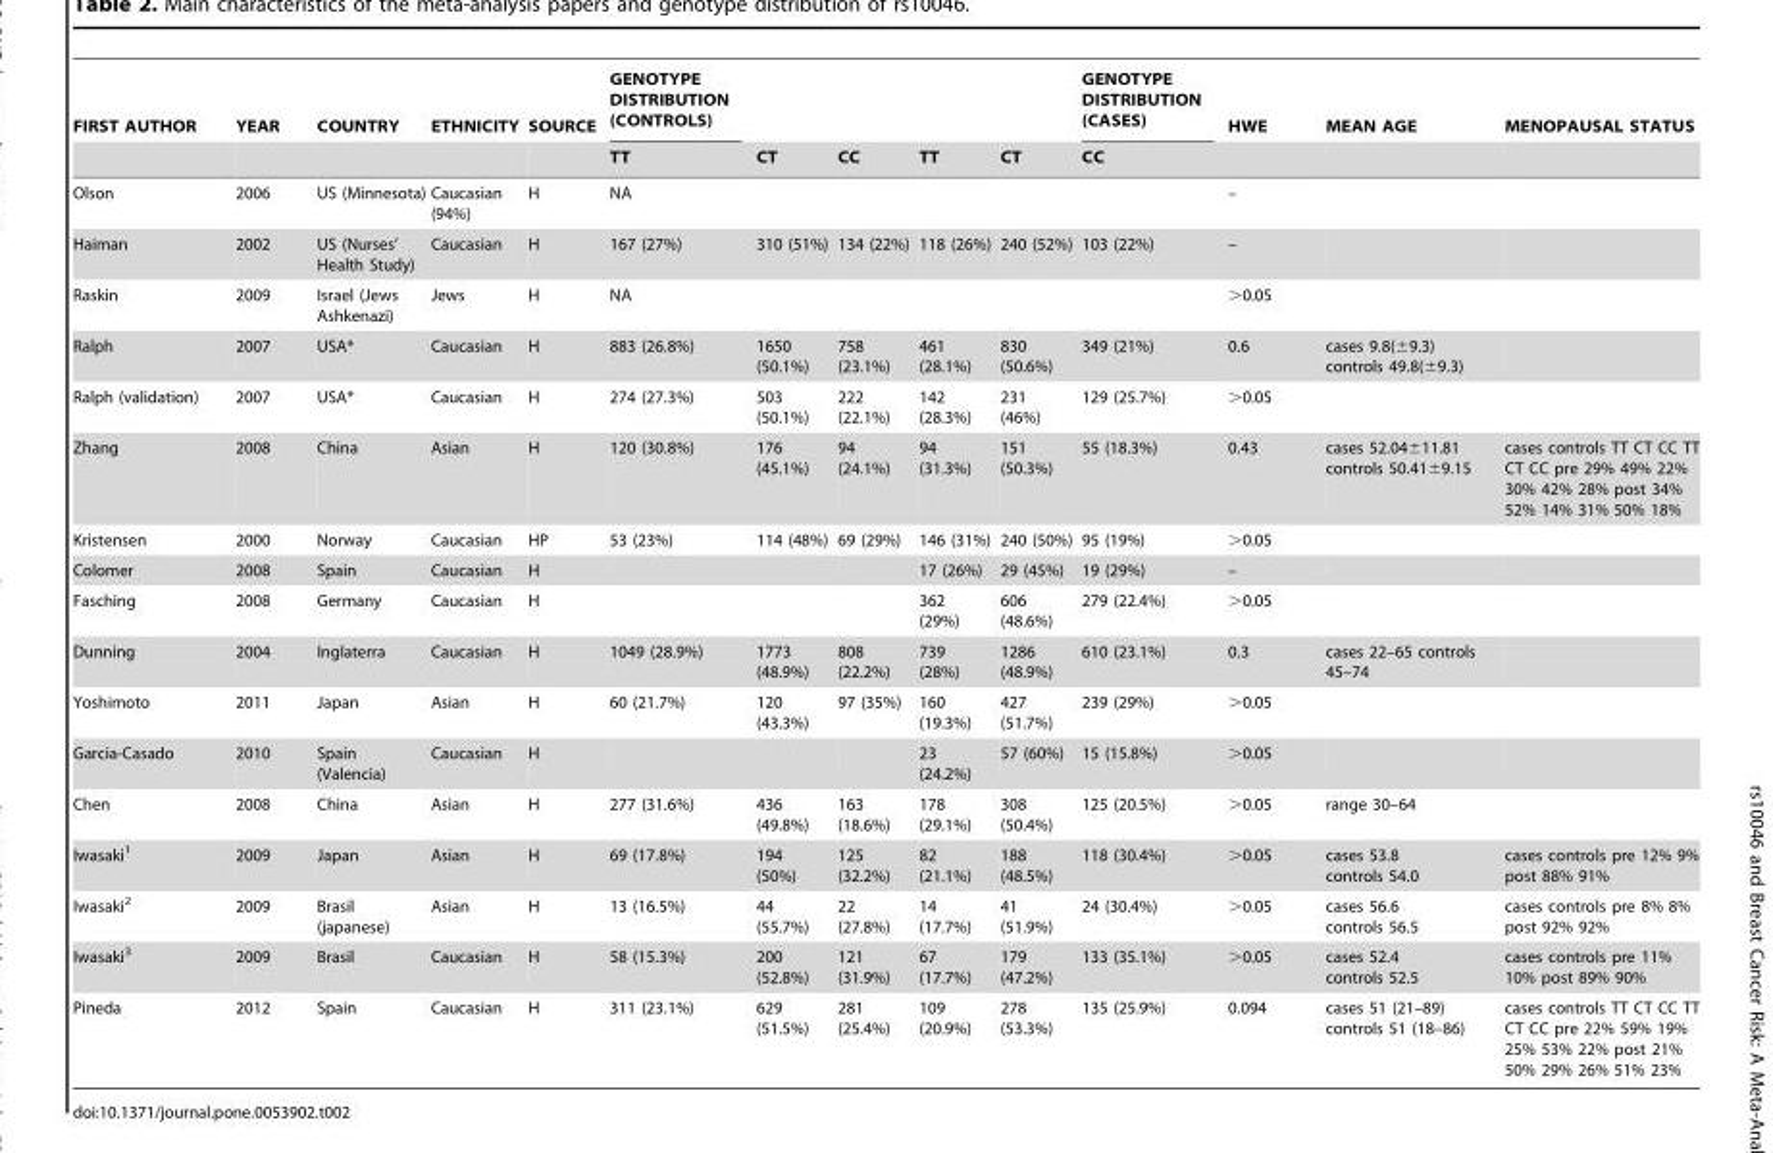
<table><thead><tr><td rowspan="2">FIRST AUTHOR</td><td rowspan="2">YEAR</td><td rowspan="2">COUNTRY</td><td rowspan="2">ETHNICITY</td><td rowspan="2">SOURCE</td><td rowspan="2">GENOTYPE DISTRIBUTION (CONTROLS) TT</td><td rowspan="2">CT</td><td rowspan="2">CC</td><td rowspan="2">TT</td><td rowspan="2">CT</td><td rowspan="2">GENOTYPE DISTRIBUTION (CASES) CC</td><td rowspan="2">HWE</td><td rowspan="2">MEAN AGE</td><td rowspan="2">MENOPAUSAL STATUS</td></tr><tr></tr></thead><tbody><tr><td>Olson</td><td>2006</td><td>US (Minnesota)</td><td>Caucasian (94%)</td><td>H</td><td>NA</td><td></td><td></td><td></td><td></td><td></td><td>–</td><td></td><td></td></tr><tr><td>Haiman</td><td>2002</td><td>US (Nurses’ Health Study)</td><td>Caucasian</td><td>H</td><td>167 (27%)</td><td>310 (51%)</td><td>134 (22%)</td><td>118 (26%)</td><td>240 (52%)</td><td>103 (22%)</td><td>–</td><td></td><td></td></tr><tr><td>Raskin</td><td>2009</td><td>Israel (Jews Ashkenazi)</td><td>Jews</td><td>H</td><td>NA</td><td></td><td></td><td></td><td></td><td></td><td>&gt;0.05</td><td></td><td></td></tr><tr><td>Ralph</td><td>2007</td><td>USA*</td><td>Caucasian</td><td>H</td><td>883 (26.8%)</td><td>1650 (50.1%)</td><td>758 (23.1%)</td><td>461 (28.1%)</td><td>830 (50.6%)</td><td>349 (21%)</td><td>0.6</td><td>cases 9.8(±9.3) controls 49.8(±9.3)</td><td></td></tr><tr><td>Ralph (validation)</td><td>2007</td><td>USA*</td><td>Caucasian</td><td>H</td><td>274 (27.3%)</td><td>503 (50.1%)</td><td>222 (22.1%)</td><td>142 (28.3%)</td><td>231 (46%)</td><td>129 (25.7%)</td><td>&gt;0.05</td><td></td><td></td></tr><tr><td>Zhang</td><td>2008</td><td>China</td><td>Asian</td><td>H</td><td>120 (30.8%)</td><td>176 (45.1%)</td><td>94 (24.1%)</td><td>94 (31.3%)</td><td>151 (50.3%)</td><td>55 (18.3%)</td><td>0.43</td><td>cases 52.04±11.81 controls 50.41±9.15</td><td>cases controls TT CT CC TT CT CC pre 29% 49% 22% 30% 42% 28% post 34% 52% 14% 31% 50% 18%</td></tr><tr><td>Kristensen</td><td>2000</td><td>Norway</td><td>Caucasian</td><td>HP</td><td>53 (23%)</td><td>114 (48%)</td><td>69 (29%)</td><td>146 (31%)</td><td>240 (50%)</td><td>95 (19%)</td><td>&gt;0.05</td><td></td><td></td></tr><tr><td>Colomer</td><td>2008</td><td>Spain</td><td>Caucasian</td><td>H</td><td></td><td></td><td></td><td>17 (26%)</td><td>29 (45%)</td><td>19 (29%)</td><td>–</td><td></td><td></td></tr><tr><td>Fasching</td><td>2008</td><td>Germany</td><td>Caucasian</td><td>H</td><td></td><td></td><td></td><td>362 (29%)</td><td>606 (48.6%)</td><td>279 (22.4%)</td><td>&gt;0.05</td><td></td><td></td></tr><tr><td>Dunning</td><td>2004</td><td>Inglaterra</td><td>Caucasian</td><td>H</td><td>1049 (28.9%)</td><td>1773 (48.9%)</td><td>808 (22.2%)</td><td>739 (28%)</td><td>1286 (48.9%)</td><td>610 (23.1%)</td><td>0.3</td><td>cases 22–65 controls 45–74</td><td></td></tr><tr><td>Yoshimoto</td><td>2011</td><td>Japan</td><td>Asian</td><td>H</td><td>60 (21.7%)</td><td>120 (43.3%)</td><td>97 (35%)</td><td>160 (19.3%)</td><td>427 (51.7%)</td><td>239 (29%)</td><td>&gt;0.05</td><td></td><td></td></tr><tr><td>Garcia-Casado</td><td>2010</td><td>Spain (Valencia)</td><td>Caucasian</td><td>H</td><td></td><td></td><td></td><td>23 (24.2%)</td><td>57 (60%)</td><td>15 (15.8%)</td><td>&gt;0.05</td><td></td><td></td></tr><tr><td>Chen</td><td>2008</td><td>China</td><td>Asian</td><td>H</td><td>277 (31.6%)</td><td>436 (49.8%)</td><td>163 (18.6%)</td><td>178 (29.1%)</td><td>308 (50.4%)</td><td>125 (20.5%)</td><td>&gt;0.05</td><td>range 30–64</td><td></td></tr><tr><td>Iwasaki<sup>1</sup></td><td>2009</td><td>Japan</td><td>Asian</td><td>H</td><td>69 (17.8%)</td><td>194 (50%)</td><td>125 (32.2%)</td><td>82 (21.1%)</td><td>188 (48.5%)</td><td>118 (30.4%)</td><td>&gt;0.05</td><td>cases 53.8 controls 54.0</td><td>cases controls pre 12% 9% post 88% 91%</td></tr><tr><td>Iwasaki<sup>2</sup></td><td>2009</td><td>Brasil (japanese)</td><td>Asian</td><td>H</td><td>13 (16.5%)</td><td>44 (55.7%)</td><td>22 (27.8%)</td><td>14 (17.7%)</td><td>41 (51.9%)</td><td>24 (30.4%)</td><td>&gt;0.05</td><td>cases 56.6 controls 56.5</td><td>cases controls pre 8% 8% post 92% 92%</td></tr><tr><td>Iwasaki<sup>3</sup></td><td>2009</td><td>Brasil</td><td>Caucasian</td><td>H</td><td>58 (15.3%)</td><td>200 (52.8%)</td><td>121 (31.9%)</td><td>67 (17.7%)</td><td>179 (47.2%)</td><td>133 (35.1%)</td><td>&gt;0.05</td><td>cases 52.4 controls 52.5</td><td>cases controls pre 11% 10% post 89% 90%</td></tr><tr><td>Pineda</td><td>2012</td><td>Spain</td><td>Caucasian</td><td>H</td><td>311 (23.1%)</td><td>629 (51.5%)</td><td>281 (25.4%)</td><td>109 (20.9%)</td><td>278 (53.3%)</td><td>135 (25.9%)</td><td>0.094</td><td>cases 51 (21–89) controls 51 (18–86)</td><td>cases controls TT CT CC TT CT CC pre 22% 59% 19% 25% 53% 22% post 21% 50% 29% 26% 51% 23%</td></tr></tbody></table>